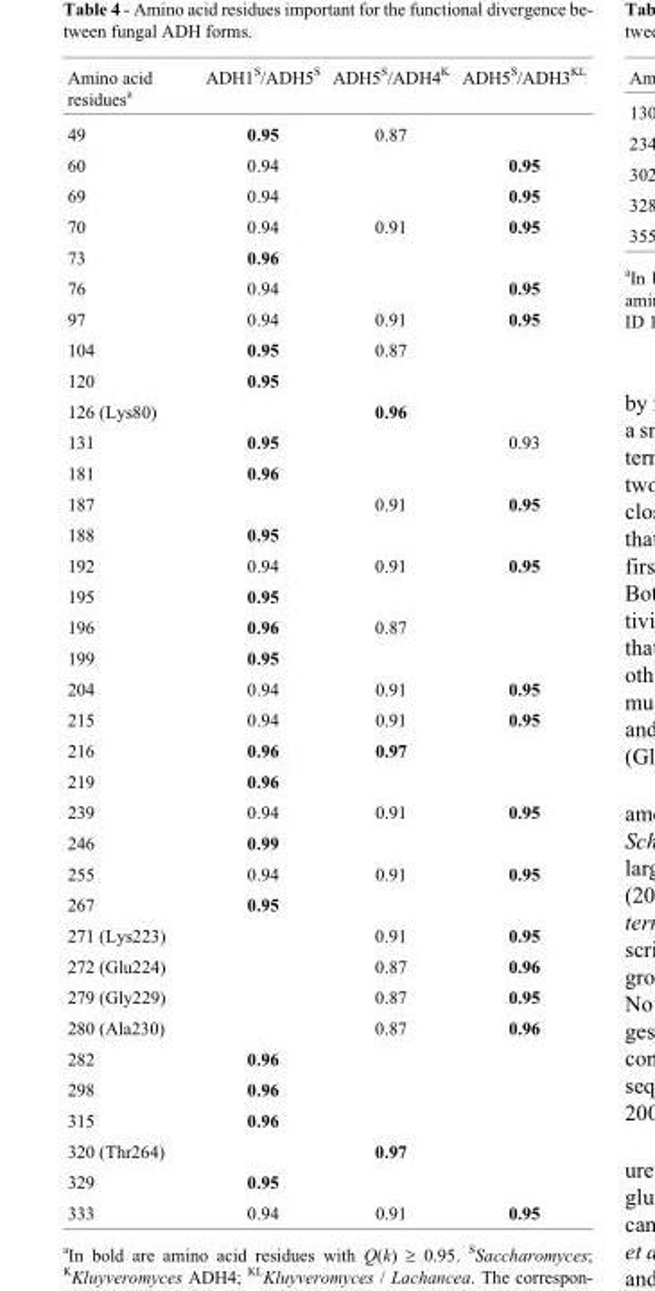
<table><thead><tr><td>Amino acid residues<sup>a</sup></td><td>ADH1<sup>S</sup>/ADH5<sup>S</sup></td><td>ADH5<sup>S</sup>/ADH4<sup>K</sup></td><td>ADH5<sup>S</sup>/ADH3<sup>KL</sup></td></tr></thead><tbody><tr><td>49</td><td>0.95</td><td>0.87</td><td></td></tr><tr><td>60</td><td>0.94</td><td></td><td>0.95</td></tr><tr><td>69</td><td>0.94</td><td></td><td>0.95</td></tr><tr><td>70</td><td>0.94</td><td>0.91</td><td>0.95</td></tr><tr><td>73</td><td>0.96</td><td></td><td></td></tr><tr><td>76</td><td>0.94</td><td></td><td>0.95</td></tr><tr><td>97</td><td>0.94</td><td>0.91</td><td>0.95</td></tr><tr><td>104</td><td>0.95</td><td>0.87</td><td></td></tr><tr><td>120</td><td>0.95</td><td></td><td></td></tr><tr><td>126 (Lys80)</td><td></td><td>0.96</td><td></td></tr><tr><td>131</td><td>0.95</td><td></td><td>0.93</td></tr><tr><td>181</td><td>0.96</td><td></td><td></td></tr><tr><td>187</td><td></td><td>0.91</td><td>0.95</td></tr><tr><td>188</td><td>0.95</td><td></td><td></td></tr><tr><td>192</td><td>0.94</td><td>0.91</td><td>0.95</td></tr><tr><td>195</td><td>0.95</td><td></td><td></td></tr><tr><td>196</td><td>0.96</td><td>0.87</td><td></td></tr><tr><td>199</td><td>0.95</td><td></td><td></td></tr><tr><td>204</td><td>0.94</td><td>0.91</td><td>0.95</td></tr><tr><td>215</td><td>0.94</td><td>0.91</td><td>0.95</td></tr><tr><td>216</td><td>0.96</td><td>0.97</td><td></td></tr><tr><td>219</td><td>0.96</td><td></td><td></td></tr><tr><td>239</td><td>0.94</td><td>0.91</td><td>0.95</td></tr><tr><td>246</td><td>0.99</td><td></td><td></td></tr><tr><td>255</td><td>0.94</td><td>0.91</td><td>0.95</td></tr><tr><td>267</td><td>0.95</td><td></td><td></td></tr><tr><td>271 (Lys223)</td><td></td><td>0.91</td><td>0.95</td></tr><tr><td>272 (Glu224)</td><td></td><td>0.87</td><td>0.96</td></tr><tr><td>279 (Gly229)</td><td></td><td>0.87</td><td>0.95</td></tr><tr><td>280 (Ala230)</td><td></td><td>0.87</td><td>0.96</td></tr><tr><td>282</td><td>0.96</td><td></td><td></td></tr><tr><td>298</td><td>0.96</td><td></td><td></td></tr><tr><td>315</td><td>0.96</td><td></td><td></td></tr><tr><td>320 (Thr264)</td><td></td><td>0.97</td><td></td></tr><tr><td>329</td><td>0.95</td><td></td><td></td></tr><tr><td>333</td><td>0.94</td><td>0.91</td><td>0.95</td></tr></tbody></table>